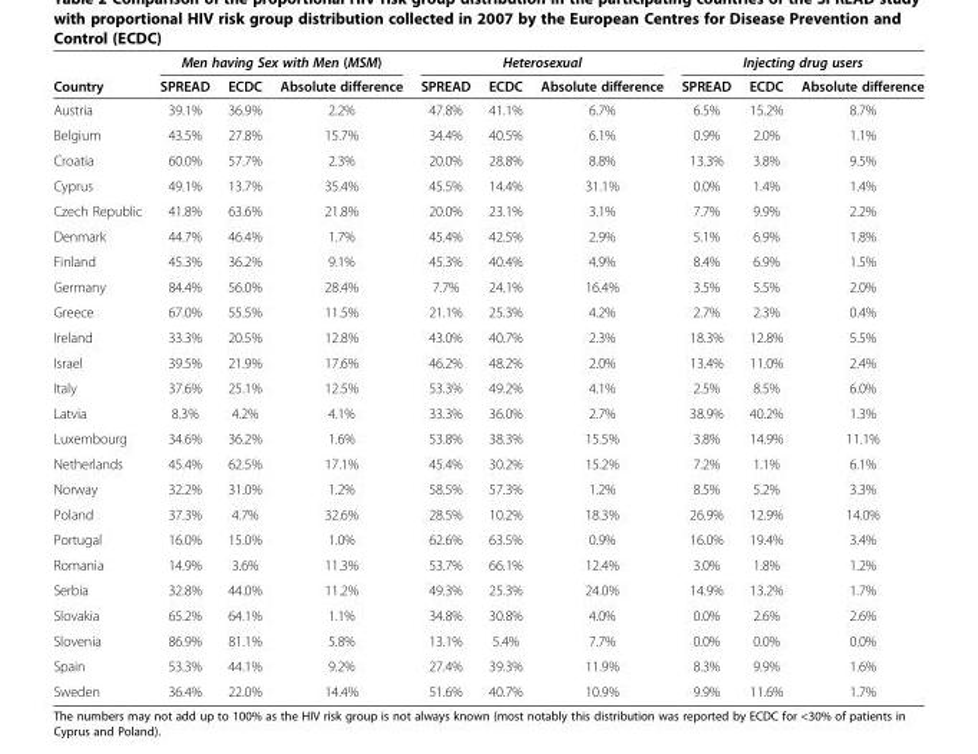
<table><thead><tr><td rowspan="2">Country</td><td colspan="3">Men having Sex with Men (MSM)</td><td colspan="3">Heterosexual</td><td colspan="3">Injecting drug users</td></tr><tr><td>SPREAD</td><td>ECDC</td><td>Absolute difference</td><td>SPREAD</td><td>ECDC</td><td>Absolute difference</td><td>SPREAD</td><td>ECDC</td><td>Absolute difference</td></tr></thead><tbody><tr><td>Austria</td><td>39.1%</td><td>36.9%</td><td>2.2%</td><td>47.8%</td><td>41.1%</td><td>6.7%</td><td>6.5%</td><td>15.2%</td><td>8.7%</td></tr><tr><td>Belgium</td><td>43.5%</td><td>27.8%</td><td>15.7%</td><td>34.4%</td><td>40.5%</td><td>6.1%</td><td>0.9%</td><td>2.0%</td><td>1.1%</td></tr><tr><td>Croatia</td><td>60.0%</td><td>57.7%</td><td>2.3%</td><td>20.0%</td><td>28.8%</td><td>8.8%</td><td>13.3%</td><td>3.8%</td><td>9.5%</td></tr><tr><td>Cyprus</td><td>49.1%</td><td>13.7%</td><td>35.4%</td><td>45.5%</td><td>14.4%</td><td>31.1%</td><td>0.0%</td><td>1.4%</td><td>1.4%</td></tr><tr><td>Czech Republic</td><td>41.8%</td><td>63.6%</td><td>21.8%</td><td>20.0%</td><td>23.1%</td><td>3.1%</td><td>7.7%</td><td>9.9%</td><td>2.2%</td></tr><tr><td>Denmark</td><td>44.7%</td><td>46.4%</td><td>1.7%</td><td>45.4%</td><td>42.5%</td><td>2.9%</td><td>5.1%</td><td>6.9%</td><td>1.8%</td></tr><tr><td>Finland</td><td>45.3%</td><td>36.2%</td><td>9.1%</td><td>45.3%</td><td>40.4%</td><td>4.9%</td><td>8.4%</td><td>6.9%</td><td>1.5%</td></tr><tr><td>Germany</td><td>84.4%</td><td>56.0%</td><td>28.4%</td><td>7.7%</td><td>24.1%</td><td>16.4%</td><td>3.5%</td><td>5.5%</td><td>2.0%</td></tr><tr><td>Greece</td><td>67.0%</td><td>55.5%</td><td>11.5%</td><td>21.1%</td><td>25.3%</td><td>4.2%</td><td>2.7%</td><td>2.3%</td><td>0.4%</td></tr><tr><td>Ireland</td><td>33.3%</td><td>20.5%</td><td>12.8%</td><td>43.0%</td><td>40.7%</td><td>2.3%</td><td>18.3%</td><td>12.8%</td><td>5.5%</td></tr><tr><td>Israel</td><td>39.5%</td><td>21.9%</td><td>17.6%</td><td>46.2%</td><td>48.2%</td><td>2.0%</td><td>13.4%</td><td>11.0%</td><td>2.4%</td></tr><tr><td>Italy</td><td>37.6%</td><td>25.1%</td><td>12.5%</td><td>53.3%</td><td>49.2%</td><td>4.1%</td><td>2.5%</td><td>8.5%</td><td>6.0%</td></tr><tr><td>Latvia</td><td>8.3%</td><td>4.2%</td><td>4.1%</td><td>33.3%</td><td>36.0%</td><td>2.7%</td><td>38.9%</td><td>40.2%</td><td>1.3%</td></tr><tr><td>Luxembourg</td><td>34.6%</td><td>36.2%</td><td>1.6%</td><td>53.8%</td><td>38.3%</td><td>15.5%</td><td>3.8%</td><td>14.9%</td><td>11.1%</td></tr><tr><td>Netherlands</td><td>45.4%</td><td>62.5%</td><td>17.1%</td><td>45.4%</td><td>30.2%</td><td>15.2%</td><td>7.2%</td><td>1.1%</td><td>6.1%</td></tr><tr><td>Norway</td><td>32.2%</td><td>31.0%</td><td>1.2%</td><td>58.5%</td><td>57.3%</td><td>1.2%</td><td>8.5%</td><td>5.2%</td><td>3.3%</td></tr><tr><td>Poland</td><td>37.3%</td><td>4.7%</td><td>32.6%</td><td>28.5%</td><td>10.2%</td><td>18.3%</td><td>26.9%</td><td>12.9%</td><td>14.0%</td></tr><tr><td>Portugal</td><td>16.0%</td><td>15.0%</td><td>1.0%</td><td>62.6%</td><td>63.5%</td><td>0.9%</td><td>16.0%</td><td>19.4%</td><td>3.4%</td></tr><tr><td>Romania</td><td>14.9%</td><td>3.6%</td><td>11.3%</td><td>53.7%</td><td>66.1%</td><td>12.4%</td><td>3.0%</td><td>1.8%</td><td>1.2%</td></tr><tr><td>Serbia</td><td>32.8%</td><td>44.0%</td><td>11.2%</td><td>49.3%</td><td>25.3%</td><td>24.0%</td><td>14.9%</td><td>13.2%</td><td>1.7%</td></tr><tr><td>Slovakia</td><td>65.2%</td><td>64.1%</td><td>1.1%</td><td>34.8%</td><td>30.8%</td><td>4.0%</td><td>0.0%</td><td>2.6%</td><td>2.6%</td></tr><tr><td>Slovenia</td><td>86.9%</td><td>81.1%</td><td>5.8%</td><td>13.1%</td><td>5.4%</td><td>7.7%</td><td>0.0%</td><td>0.0%</td><td>0.0%</td></tr><tr><td>Spain</td><td>53.3%</td><td>44.1%</td><td>9.2%</td><td>27.4%</td><td>39.3%</td><td>11.9%</td><td>8.3%</td><td>9.9%</td><td>1.6%</td></tr><tr><td>Sweden</td><td>36.4%</td><td>22.0%</td><td>14.4%</td><td>51.6%</td><td>40.7%</td><td>10.9%</td><td>9.9%</td><td>11.6%</td><td>1.7%</td></tr></tbody></table>